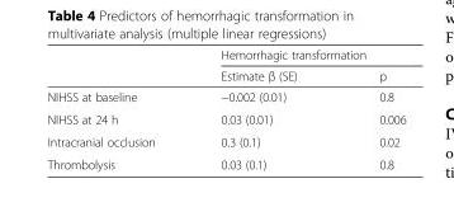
<table><thead><tr><td rowspan="2"></td><td colspan="2">Hemorrhagic transformation</td></tr><tr><td>Estimate β (SE)</td><td>p</td></tr></thead><tbody><tr><td>NIHSS at baseline</td><td>−0.002 (0.01)</td><td>0.8</td></tr><tr><td>NIHSS at 24 h</td><td>0.03 (0.01)</td><td>0.006</td></tr><tr><td>Intracranial occlusion</td><td>0.3 (0.1)</td><td>0.02</td></tr><tr><td>Thrombolysis</td><td>0.03 (0.1)</td><td>0.8</td></tr></tbody></table>